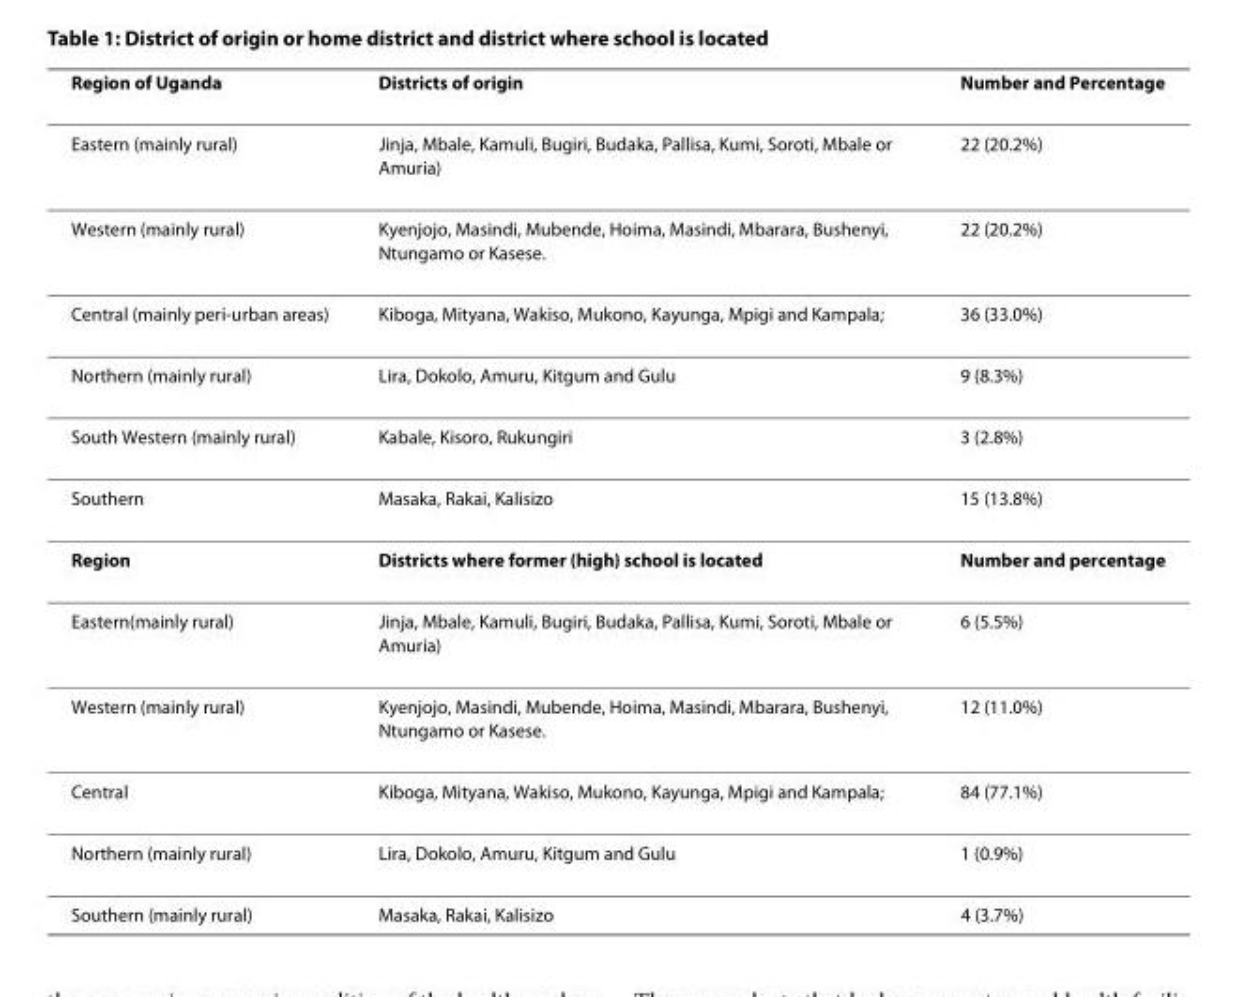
<table><thead><tr><td>Region of Uganda</td><td>Districts of origin</td><td>Number and Percentage</td></tr></thead><tbody><tr><td>Eastern (mainly rural)</td><td>Jinja, Mbale, Kamuli, Bugiri, Budaka, Pallisa, Kumi, Soroti, Mbale or Amuria)</td><td>22 (20.2%)</td></tr><tr><td>Western (mainly rural)</td><td>Kyenjojo, Masindi, Mubende, Hoima, Masindi, Mbarara, Bushenyi, Ntungamo or Kasese.</td><td>22 (20.2%)</td></tr><tr><td>Central (mainly peri-urban areas)</td><td>Kiboga, Mityana, Wakiso, Mukono, Kayunga, Mpigi and Kampala;</td><td>36 (33.0%)</td></tr><tr><td>Northern (mainly rural)</td><td>Lira, Dokolo, Amuru, Kitgum and Gulu</td><td>9 (8.3%)</td></tr><tr><td>South Western (mainly rural)</td><td>Kabale, Kisoro, Rukungiri</td><td>3 (2.8%)</td></tr><tr><td>Southern</td><td>Masaka, Rakai, Kalisizo</td><td>15 (13.8%)</td></tr><tr><td>Region</td><td>Districts where former (high) school is located</td><td>Number and percentage</td></tr><tr><td>Eastern(mainly rural)</td><td>Jinja, Mbale, Kamuli, Bugiri, Budaka, Pallisa, Kumi, Soroti, Mbale or Amuria)</td><td>6 (5.5%)</td></tr><tr><td>Western (mainly rural)</td><td>Kyenjojo, Masindi, Mubende, Hoima, Masindi, Mbarara, Bushenyi, Ntungamo or Kasese.</td><td>12 (11.0%)</td></tr><tr><td>Central</td><td>Kiboga, Mityana, Wakiso, Mukono, Kayunga, Mpigi and Kampala;</td><td>84 (77.1%)</td></tr><tr><td>Northern (mainly rural)</td><td>Lira, Dokolo, Amuru, Kitgum and Gulu</td><td>1 (0.9%)</td></tr><tr><td>Southern (mainly rural)</td><td>Masaka, Rakai, Kalisizo</td><td>4 (3.7%)</td></tr></tbody></table>